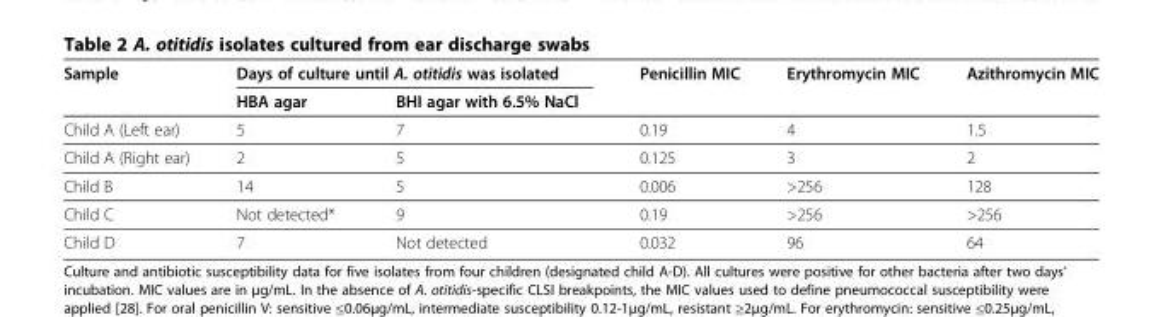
<table><thead><tr><td rowspan="2">Sample</td><td colspan="2">Days of culture until A. otitidis was isolated</td><td rowspan="2">Penicillin MIC</td><td rowspan="2">Erythromycin MIC</td><td rowspan="2">Azithromycin MIC</td></tr><tr><td>HBA agar</td><td>BHI agar with 6.5% NaCl</td></tr></thead><tbody><tr><td>Child A (Left ear)</td><td>5</td><td>7</td><td>0.19</td><td>4</td><td>1.5</td></tr><tr><td>Child A (Right ear)</td><td>2</td><td>5</td><td>0.125</td><td>3</td><td>2</td></tr><tr><td>Child B</td><td>14</td><td>5</td><td>0.006</td><td>&gt;256</td><td>128</td></tr><tr><td>Child C</td><td>Not detected*</td><td>9</td><td>0.19</td><td>&gt;256</td><td>&gt;256</td></tr><tr><td>Child D</td><td>7</td><td>Not detected</td><td>0.032</td><td>96</td><td>64</td></tr></tbody></table>